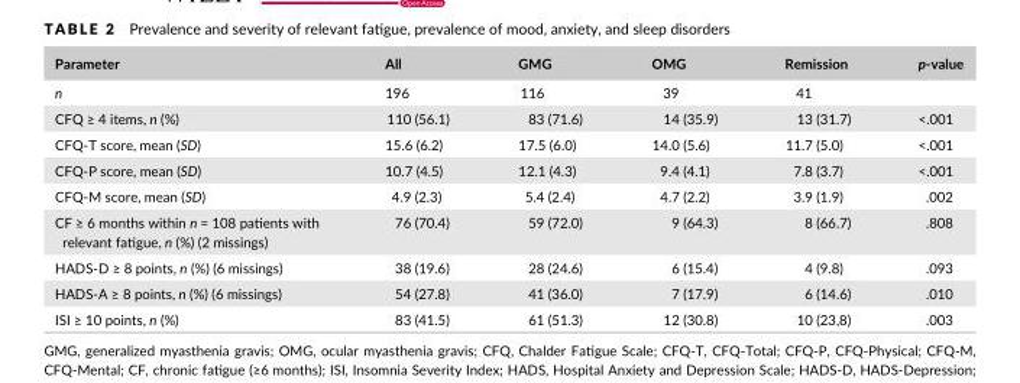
<table><thead><tr><td>Parameter</td><td>All</td><td>GMG</td><td>OMG</td><td>Remission</td><td>p- value</td></tr></thead><tbody><tr><td>n</td><td>196</td><td>116</td><td>39</td><td>41</td><td></td></tr><tr><td>CFQ ≥ 4 items, n (%)</td><td>110 (56.1)</td><td>83 (71.6)</td><td>14 (35.9)</td><td>13 (31.7)</td><td>&lt;.001</td></tr><tr><td>CFQ- T score, mean (SD)</td><td>15.6 (6.2)</td><td>17.5 (6.0)</td><td>14.0 (5.6)</td><td>11.7 (5.0)</td><td>&lt;.001</td></tr><tr><td>CFQ- P score, mean (SD)</td><td>10.7 (4.5)</td><td>12.1 (4.3)</td><td>9.4 (4.1)</td><td>7.8 (3.7)</td><td>&lt;.001</td></tr><tr><td>CFQ- M score, mean (SD)</td><td>4.9 (2.3)</td><td>5.4 (2.4)</td><td>4.7 (2.2)</td><td>3.9 (1.9)</td><td>.002</td></tr><tr><td>CF ≥ 6 months within n = 108 patients with relevant fatigue, n (%) (2 missings)</td><td>76 (70.4)</td><td>59 (72.0)</td><td>9 (64.3)</td><td>8 (66.7)</td><td>.808</td></tr><tr><td>HADS- D ≥ 8 points, n (%) (6 missings)</td><td>38 (19.6)</td><td>28 (24.6)</td><td>6 (15.4)</td><td>4 (9.8)</td><td>.093</td></tr><tr><td>HADS- A ≥ 8 points, n (%) (6 missings)</td><td>54 (27.8)</td><td>41 (36.0)</td><td>7 (17.9)</td><td>6 (14.6)</td><td>.010</td></tr><tr><td>ISI ≥ 10 points, n (%)</td><td>83 (41.5)</td><td>61 (51.3)</td><td>12 (30.8)</td><td>10 (23,8)</td><td>.003</td></tr></tbody></table>